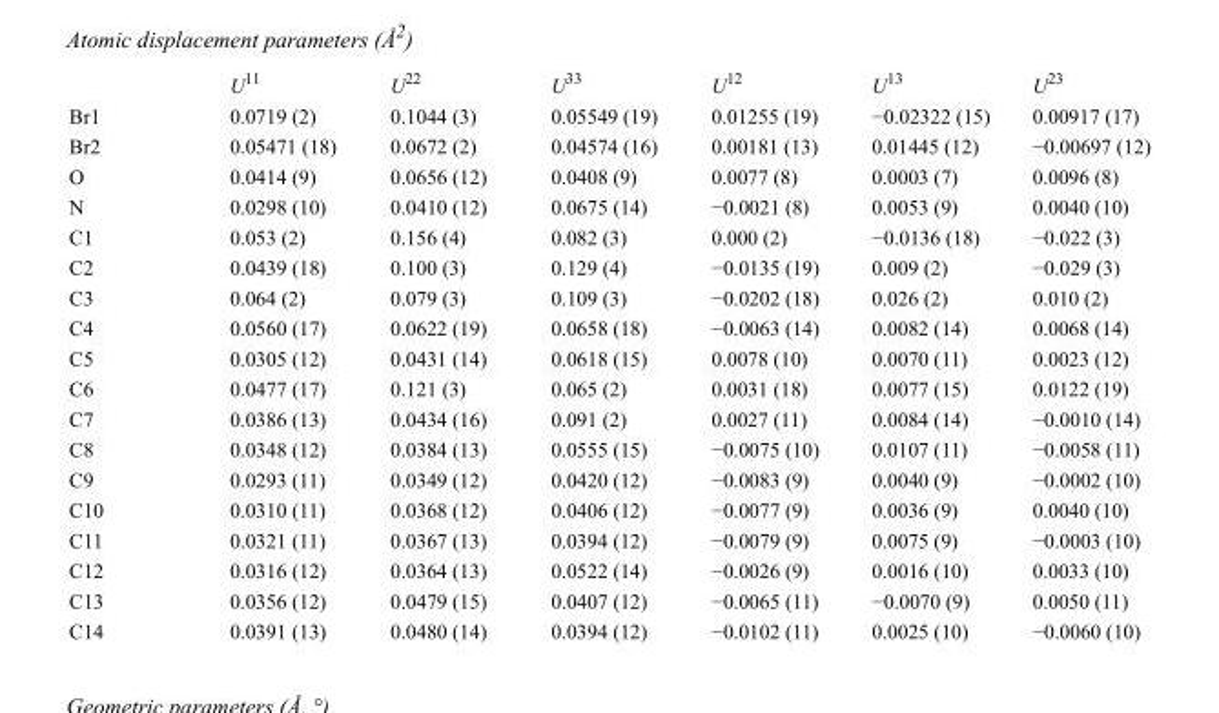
<table><thead><tr><td></td><td>U<sup>11</sup></td><td>U<sup>22</sup></td><td>U<sup>33</sup></td><td>U<sup>12</sup></td><td>U<sup>13</sup></td><td>U<sup>23</sup></td></tr></thead><tbody><tr><td>Br1</td><td>0.0719 (2)</td><td>0.1044 (3)</td><td>0.05549 (19)</td><td>0.01255 (19)</td><td>−0.02322 (15)</td><td>0.00917 (17)</td></tr><tr><td>Br2</td><td>0.05471 (18)</td><td>0.0672 (2)</td><td>0.04574 (16)</td><td>0.00181 (13)</td><td>0.01445 (12)</td><td>−0.00697 (12)</td></tr><tr><td>O</td><td>0.0414 (9)</td><td>0.0656 (12)</td><td>0.0408 (9)</td><td>0.0077 (8)</td><td>0.0003 (7)</td><td>0.0096 (8)</td></tr><tr><td>N</td><td>0.0298 (10)</td><td>0.0410 (12)</td><td>0.0675 (14)</td><td>−0.0021 (8)</td><td>0.0053 (9)</td><td>0.0040 (10)</td></tr><tr><td>C1</td><td>0.053 (2)</td><td>0.156 (4)</td><td>0.082 (3)</td><td>0.000 (2)</td><td>−0.0136 (18)</td><td>−0.022 (3)</td></tr><tr><td>C2</td><td>0.0439 (18)</td><td>0.100 (3)</td><td>0.129 (4)</td><td>−0.0135 (19)</td><td>0.009 (2)</td><td>−0.029 (3)</td></tr><tr><td>C3</td><td>0.064 (2)</td><td>0.079 (3)</td><td>0.109 (3)</td><td>−0.0202 (18)</td><td>0.026 (2)</td><td>0.010 (2)</td></tr><tr><td>C4</td><td>0.0560 (17)</td><td>0.0622 (19)</td><td>0.0658 (18)</td><td>−0.0063 (14)</td><td>0.0082 (14)</td><td>0.0068 (14)</td></tr><tr><td>C5</td><td>0.0305 (12)</td><td>0.0431 (14)</td><td>0.0618 (15)</td><td>0.0078 (10)</td><td>0.0070 (11)</td><td>0.0023 (12)</td></tr><tr><td>C6</td><td>0.0477 (17)</td><td>0.121 (3)</td><td>0.065 (2)</td><td>0.0031 (18)</td><td>0.0077 (15)</td><td>0.0122 (19)</td></tr><tr><td>C7</td><td>0.0386 (13)</td><td>0.0434 (16)</td><td>0.091 (2)</td><td>0.0027 (11)</td><td>0.0084 (14)</td><td>−0.0010 (14)</td></tr><tr><td>C8</td><td>0.0348 (12)</td><td>0.0384 (13)</td><td>0.0555 (15)</td><td>−0.0075 (10)</td><td>0.0107 (11)</td><td>−0.0058 (11)</td></tr><tr><td>C9</td><td>0.0293 (11)</td><td>0.0349 (12)</td><td>0.0420 (12)</td><td>−0.0083 (9)</td><td>0.0040 (9)</td><td>−0.0002 (10)</td></tr><tr><td>C10</td><td>0.0310 (11)</td><td>0.0368 (12)</td><td>0.0406 (12)</td><td>−0.0077 (9)</td><td>0.0036 (9)</td><td>0.0040 (10)</td></tr><tr><td>C11</td><td>0.0321 (11)</td><td>0.0367 (13)</td><td>0.0394 (12)</td><td>−0.0079 (9)</td><td>0.0075 (9)</td><td>−0.0003 (10)</td></tr><tr><td>C12</td><td>0.0316 (12)</td><td>0.0364 (13)</td><td>0.0522 (14)</td><td>−0.0026 (9)</td><td>0.0016 (10)</td><td>0.0033 (10)</td></tr><tr><td>C13</td><td>0.0356 (12)</td><td>0.0479 (15)</td><td>0.0407 (12)</td><td>−0.0065 (11)</td><td>−0.0070 (9)</td><td>0.0050 (11)</td></tr><tr><td>C14</td><td>0.0391 (13)</td><td>0.0480 (14)</td><td>0.0394 (12)</td><td>−0.0102 (11)</td><td>0.0025 (10)</td><td>−0.0060 (10)</td></tr></tbody></table>